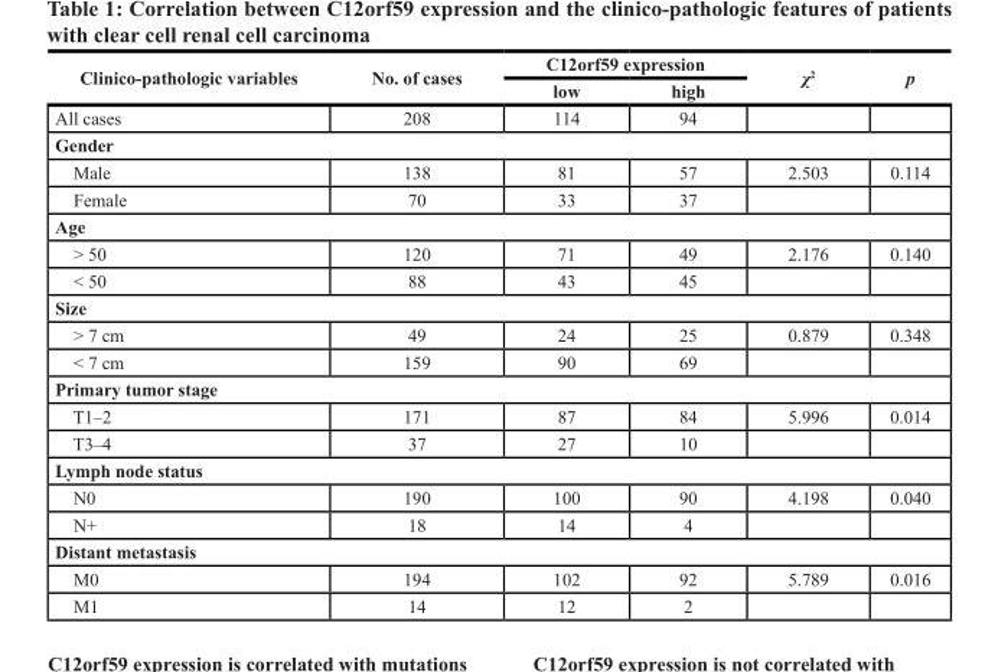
<table><thead><tr><td rowspan="2">Clinico-pathologic variables</td><td rowspan="2">No. of cases</td><td colspan="2">C12orf59 expression</td><td rowspan="2">χ<sup>2</sup></td><td rowspan="2">p</td></tr><tr><td>low</td><td>high</td></tr></thead><tbody><tr><td>All cases</td><td>208</td><td>114</td><td>94</td><td></td><td></td></tr><tr><td colspan="6">Gender</td></tr><tr><td>Male</td><td>138</td><td>81</td><td>57</td><td>2.503</td><td>0.114</td></tr><tr><td>Female</td><td>70</td><td>33</td><td>37</td><td></td><td></td></tr><tr><td colspan="6">Age</td></tr><tr><td>&gt; 50</td><td>120</td><td>71</td><td>49</td><td>2.176</td><td>0.140</td></tr><tr><td>&lt; 50</td><td>88</td><td>43</td><td>45</td><td></td><td></td></tr><tr><td colspan="6">Size</td></tr><tr><td>&gt; 7 cm</td><td>49</td><td>24</td><td>25</td><td>0.879</td><td>0.348</td></tr><tr><td>&lt; 7 cm</td><td>159</td><td>90</td><td>69</td><td></td><td></td></tr><tr><td colspan="6">Primary tumor stage</td></tr><tr><td>T1–2</td><td>171</td><td>87</td><td>84</td><td>5.996</td><td>0.014</td></tr><tr><td>T3–4</td><td>37</td><td>27</td><td>10</td><td></td><td></td></tr><tr><td colspan="6">Lymph node status</td></tr><tr><td>N0</td><td>190</td><td>100</td><td>90</td><td>4.198</td><td>0.040</td></tr><tr><td>N+</td><td>18</td><td>14</td><td>4</td><td></td><td></td></tr><tr><td colspan="6">Distant metastasis</td></tr><tr><td>M0</td><td>194</td><td>102</td><td>92</td><td>5.789</td><td>0.016</td></tr><tr><td>M1</td><td>14</td><td>12</td><td>2</td><td></td><td></td></tr></tbody></table>